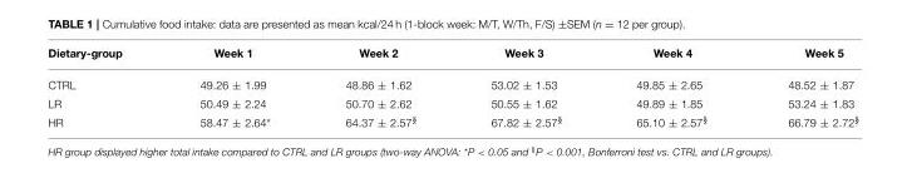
<table><thead><tr><td>Dietary-group</td><td>Week 1</td><td>Week 2</td><td>Week 3</td><td>Week 4</td><td>Week 5</td></tr></thead><tbody><tr><td>CTRL</td><td>49.26 ± 1.99</td><td>48.86 ± 1.62</td><td>53.02 ± 1.53</td><td>49.85 ± 2.65</td><td>48.52 ± 1.87</td></tr><tr><td>LR</td><td>50.49 ± 2.24</td><td>50.70 ± 2.62</td><td>50.55 ± 1.62</td><td>49.89 ± 1.85</td><td>53.24 ± 1.83</td></tr><tr><td>HR</td><td>58.47 ± 2.64*</td><td>64.37 ± 2.57<sup>§</sup></td><td>67.82 ± 2.57<sup>§</sup></td><td>65.10 ± 2.57<sup>§</sup></td><td>66.79 ± 2.72<sup>§</sup></td></tr></tbody></table>